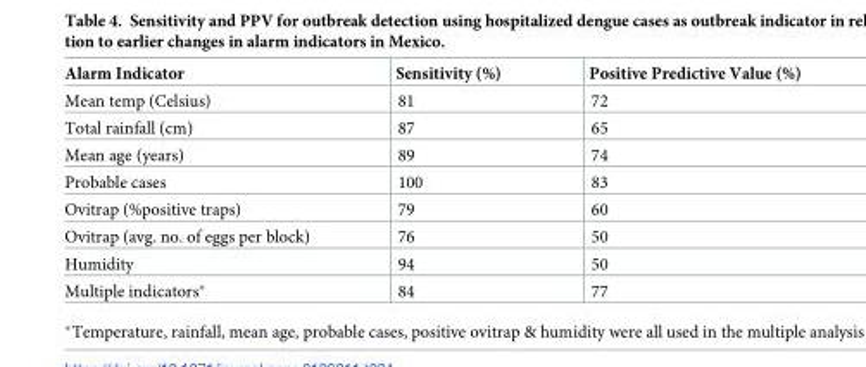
<table><thead><tr><td>Alarm Indicator</td><td>Sensitivity (%)</td><td>Positive Predictive Value (%)</td></tr></thead><tbody><tr><td>Mean temp (Celsius)</td><td>81</td><td>72</td></tr><tr><td>Total rainfall (cm)</td><td>87</td><td>65</td></tr><tr><td>Mean age (years)</td><td>89</td><td>74</td></tr><tr><td>Probable cases</td><td>100</td><td>83</td></tr><tr><td>Ovitrap (%positive traps)</td><td>79</td><td>60</td></tr><tr><td>Ovitrap (avg. no. of eggs per block)</td><td>76</td><td>50</td></tr><tr><td>Humidity</td><td>94</td><td>50</td></tr><tr><td>Multiple indicators*</td><td>84</td><td>77</td></tr></tbody></table>